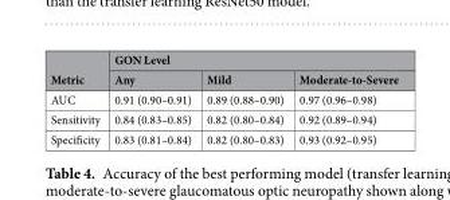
<table><thead><tr><td rowspan="2">Metric</td><td colspan="3">GON Level</td></tr><tr><td>Any</td><td>Mild</td><td>Moderate-to-Severe</td></tr></thead><tbody><tr><td>AUC</td><td>0.91 (0.90–0.91)</td><td>0.89 (0.88–0.90)</td><td>0.97 (0.96–0.98)</td></tr><tr><td>Sensitivity</td><td>0.84 (0.83–0.85)</td><td>0.82 (0.80–0.84)</td><td>0.92 (0.89–0.94)</td></tr><tr><td>Specificity</td><td>0.83 (0.81–0.84)</td><td>0.82 (0.80–0.83)</td><td>0.93 (0.92–0.95)</td></tr></tbody></table>